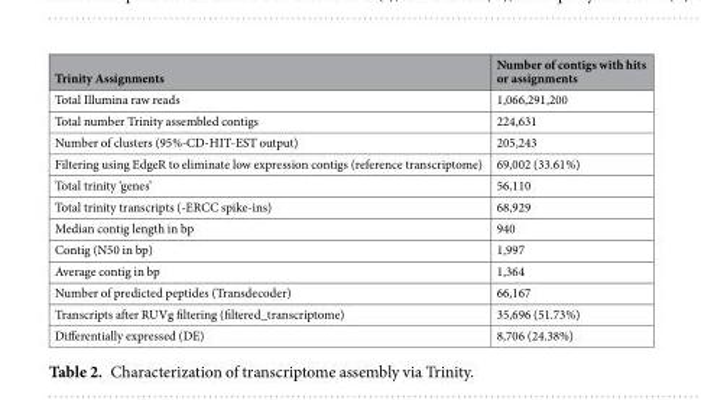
<table><thead><tr><td>Trinity Assignments</td><td>Number of contigs with hits or assignments</td></tr></thead><tbody><tr><td>Total Illumina raw reads</td><td>1,066,291,200</td></tr><tr><td>Total number Trinity assembled contigs</td><td>224,631</td></tr><tr><td>Number of clusters (95%-CD-HIT-EST output)</td><td>205,243</td></tr><tr><td>Filtering using EdgeR to eliminate low expression contigs (reference transcriptome)</td><td>69,002 (33.61%)</td></tr><tr><td>Total trinity ‘genes’</td><td>56,110</td></tr><tr><td>Total trinity transcripts (-ERCC spike-ins)</td><td>68,929</td></tr><tr><td>Median contig length in bp</td><td>940</td></tr><tr><td>Contig (N50 in bp)</td><td>1,997</td></tr><tr><td>Average contig in bp</td><td>1,364</td></tr><tr><td>Number of predicted peptides (Transdecoder)</td><td>66,167</td></tr><tr><td>Transcripts after RUVg filtering (filtered_transcriptome)</td><td>35,696 (51.73%)</td></tr><tr><td>Differentially expressed (DE)</td><td>8,706 (24.38%)</td></tr></tbody></table>